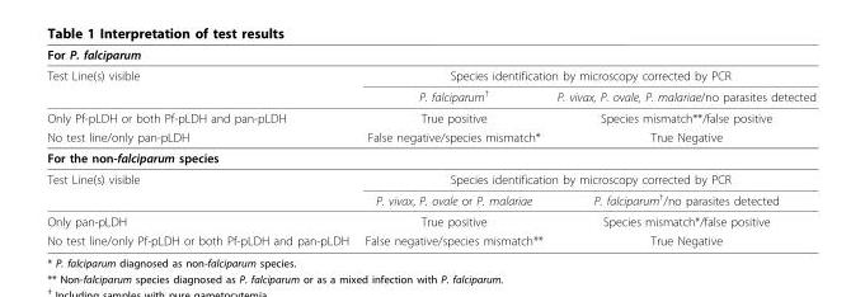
<table><thead><tr><td colspan="3">For P. falciparum</td></tr><tr><td rowspan="2">Test Line(s) visible</td><td colspan="2">Species identification by microscopy corrected by PCR</td></tr><tr><td>P. falciparum<sup>†</sup></td><td>P. vivax, P. ovale, P. malariae/no parasites detected</td></tr></thead><tbody><tr><td>Only Pf-pLDH or both Pf-pLDH and pan-pLDH</td><td>True positive</td><td>Species mismatch**/false positive</td></tr><tr><td>No test line/only pan-pLDH</td><td>False negative/species mismatch*</td><td>True Negative</td></tr><tr><td colspan="3">For the non-falciparum species</td></tr><tr><td rowspan="2">Test Line(s) visible</td><td colspan="2">Species identification by microscopy corrected by PCR</td></tr><tr><td>P. vivax, P. ovale or P. malariae</td><td>P. falciparum<sup>†</sup>/no parasites detected</td></tr><tr><td>Only pan-pLDH</td><td>True positive</td><td>Species mismatch*/false positive</td></tr><tr><td>No test line/only Pf-pLDH or both Pf-pLDH and pan-pLDH</td><td>False negative/species mismatch**</td><td>True Negative</td></tr></tbody></table>